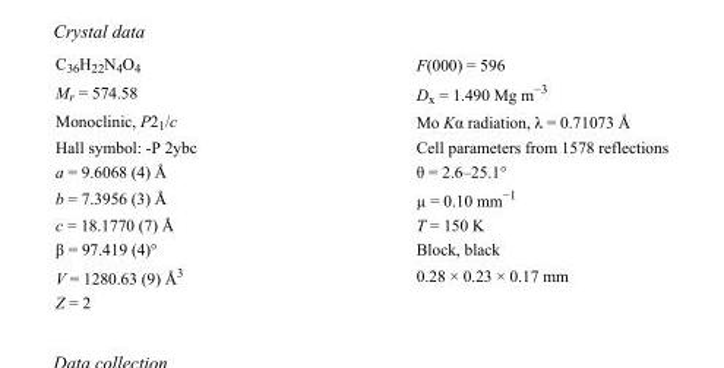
<table><tbody><tr><td>C<sub>36</sub>H<sub>22</sub>N<sub>4</sub>O<sub>4</sub></td><td>F(000) = 596</td></tr><tr><td>M<sub>r</sub> = 574.58</td><td>D<sub>x</sub> = 1.490 Mg m<sup>−3</sup></td></tr><tr><td>Monoclinic, P2<sub>1</sub>/c</td><td>Mo Kα radiation, λ = 0.71073 Å</td></tr><tr><td>Hall symbol: -P 2ybc</td><td>Cell parameters from 1578 reflections</td></tr><tr><td>a = 9.6068 (4) Å</td><td>θ = 2.6–25.1°</td></tr><tr><td>b = 7.3956 (3) Å</td><td>µ = 0.10 mm<sup>−1</sup></td></tr><tr><td>c = 18.1770 (7) Å</td><td>T = 150 K</td></tr><tr><td>β = 97.419 (4)°</td><td>Block, black</td></tr><tr><td>V = 1280.63 (9) Å<sup>3</sup></td><td>0.28 × 0.23 × 0.17 mm</td></tr><tr><td>Z = 2</td><td></td></tr></tbody></table>